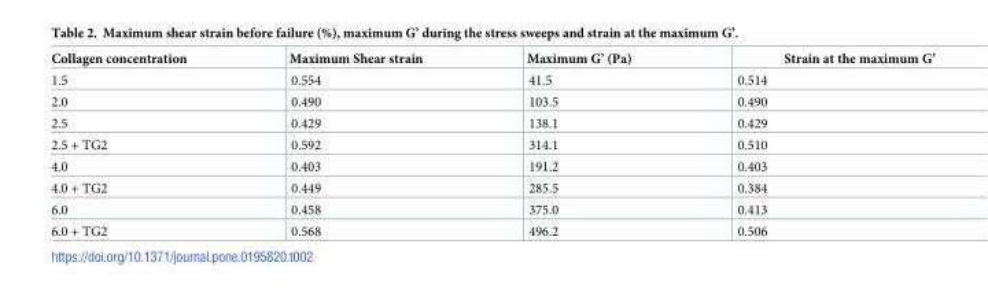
<table><thead><tr><td>Collagen concentration</td><td>Maximum Shear strain</td><td>Maximum G’ (Pa)</td><td>Strain at the maximum G’</td></tr></thead><tbody><tr><td>1.5</td><td>0.554</td><td>41.5</td><td>0.514</td></tr><tr><td>2.0</td><td>0.490</td><td>103.5</td><td>0.490</td></tr><tr><td>2.5</td><td>0.429</td><td>138.1</td><td>0.429</td></tr><tr><td>2.5 + TG2</td><td>0.592</td><td>314.1</td><td>0.510</td></tr><tr><td>4.0</td><td>0.403</td><td>191.2</td><td>0.403</td></tr><tr><td>4.0 + TG2</td><td>0.449</td><td>285.5</td><td>0.384</td></tr><tr><td>6.0</td><td>0.458</td><td>375.0</td><td>0.413</td></tr><tr><td>6.0 + TG2</td><td>0.568</td><td>496.2</td><td>0.506</td></tr></tbody></table>